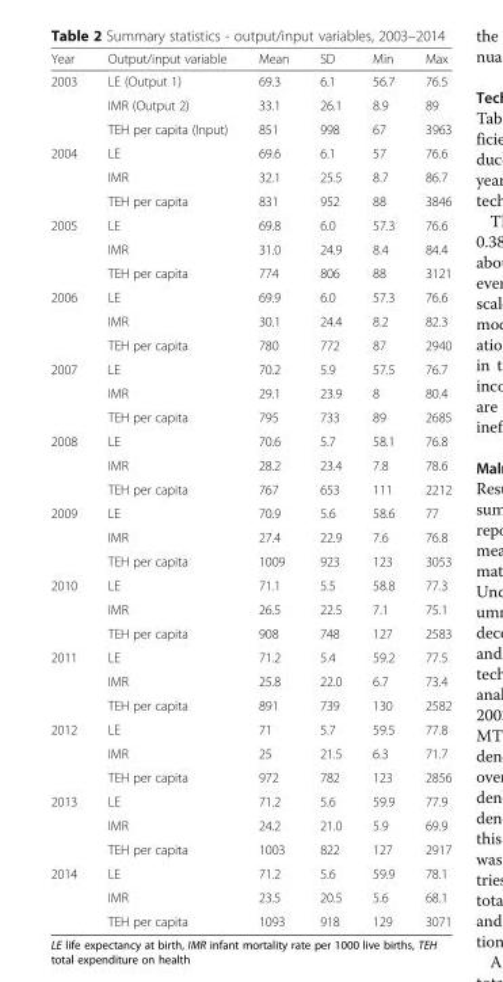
<table><thead><tr><td>Year</td><td>Output/input variable</td><td>Mean</td><td>SD</td><td>Min</td><td>Max</td></tr></thead><tbody><tr><td rowspan="3">2003</td><td>LE (Output 1)</td><td>69.3</td><td>6.1</td><td>56.7</td><td>76.5</td></tr><tr><td>IMR (Output 2)</td><td>33.1</td><td>26.1</td><td>8.9</td><td>89</td></tr><tr><td>TEH per capita (Input)</td><td>851</td><td>998</td><td>67</td><td>3963</td></tr><tr><td rowspan="3">2004</td><td>LE</td><td>69.6</td><td>6.1</td><td>57</td><td>76.6</td></tr><tr><td>IMR</td><td>32.1</td><td>25.5</td><td>8.7</td><td>86.7</td></tr><tr><td>TEH per capita</td><td>831</td><td>952</td><td>88</td><td>3846</td></tr><tr><td rowspan="3">2005</td><td>LE</td><td>69.8</td><td>6.0</td><td>57.3</td><td>76.6</td></tr><tr><td>IMR</td><td>31.0</td><td>24.9</td><td>8.4</td><td>84.4</td></tr><tr><td>TEH per capita</td><td>774</td><td>806</td><td>88</td><td>3121</td></tr><tr><td rowspan="3">2006</td><td>LE</td><td>69.9</td><td>6.0</td><td>57.3</td><td>76.6</td></tr><tr><td>IMR</td><td>30.1</td><td>24.4</td><td>8.2</td><td>82.3</td></tr><tr><td>TEH per capita</td><td>780</td><td>772</td><td>87</td><td>2940</td></tr><tr><td rowspan="3">2007</td><td>LE</td><td>70.2</td><td>5.9</td><td>57.5</td><td>76.7</td></tr><tr><td>IMR</td><td>29.1</td><td>23.9</td><td>8</td><td>80.4</td></tr><tr><td>TEH per capita</td><td>795</td><td>733</td><td>89</td><td>2685</td></tr><tr><td rowspan="3">2008</td><td>LE</td><td>70.6</td><td>5.7</td><td>58.1</td><td>76.8</td></tr><tr><td>IMR</td><td>28.2</td><td>23.4</td><td>7.8</td><td>78.6</td></tr><tr><td>TEH per capita</td><td>767</td><td>653</td><td>111</td><td>2212</td></tr><tr><td rowspan="3">2009</td><td>LE</td><td>70.9</td><td>5.6</td><td>58.6</td><td>77</td></tr><tr><td>IMR</td><td>27.4</td><td>22.9</td><td>7.6</td><td>76.8</td></tr><tr><td>TEH per capita</td><td>1009</td><td>923</td><td>123</td><td>3053</td></tr><tr><td rowspan="3">2010</td><td>LE</td><td>71.1</td><td>5.5</td><td>58.8</td><td>77.3</td></tr><tr><td>IMR</td><td>26.5</td><td>22.5</td><td>7.1</td><td>75.1</td></tr><tr><td>TEH per capita</td><td>908</td><td>748</td><td>127</td><td>2583</td></tr><tr><td rowspan="3">2011</td><td>LE</td><td>71.2</td><td>5.4</td><td>59.2</td><td>77.5</td></tr><tr><td>IMR</td><td>25.8</td><td>22.0</td><td>6.7</td><td>73.4</td></tr><tr><td>TEH per capita</td><td>891</td><td>739</td><td>130</td><td>2582</td></tr><tr><td rowspan="3">2012</td><td>LE</td><td>71</td><td>5.7</td><td>59.5</td><td>77.8</td></tr><tr><td>IMR</td><td>25</td><td>21.5</td><td>6.3</td><td>71.7</td></tr><tr><td>TEH per capita</td><td>972</td><td>782</td><td>123</td><td>2856</td></tr><tr><td rowspan="3">2013</td><td>LE</td><td>71.2</td><td>5.6</td><td>59.9</td><td>77.9</td></tr><tr><td>IMR</td><td>24.2</td><td>21.0</td><td>5.9</td><td>69.9</td></tr><tr><td>TEH per capita</td><td>1003</td><td>822</td><td>127</td><td>2917</td></tr><tr><td rowspan="3">2014</td><td>LE</td><td>71.2</td><td>5.6</td><td>59.9</td><td>78.1</td></tr><tr><td>IMR</td><td>23.5</td><td>20.5</td><td>5.6</td><td>68.1</td></tr><tr><td>TEH per capita</td><td>1093</td><td>918</td><td>129</td><td>3071</td></tr></tbody></table>